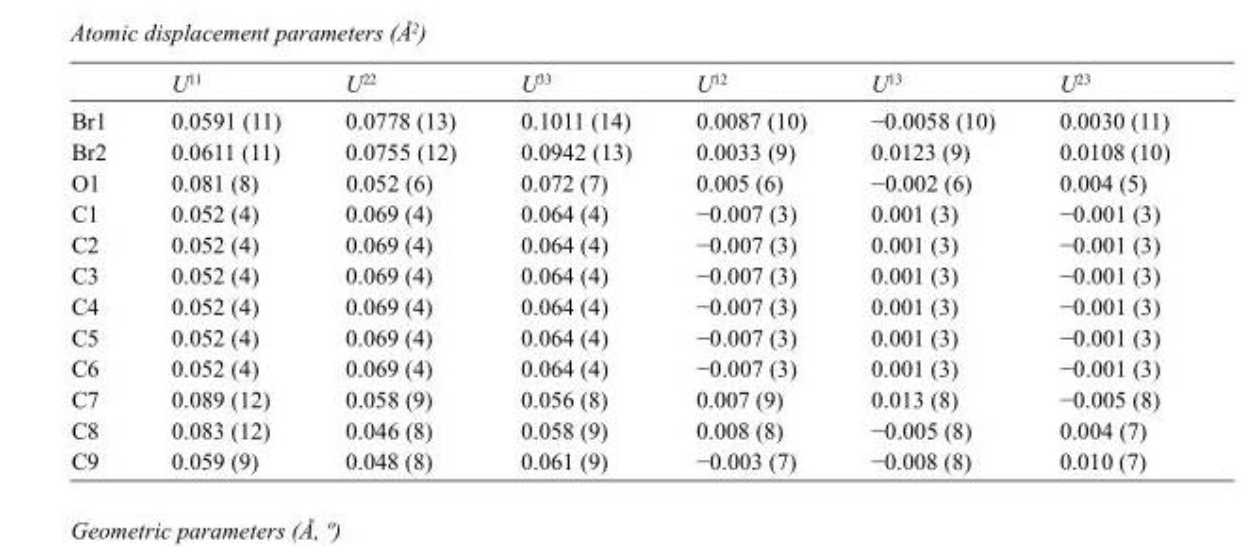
<table><thead><tr><td></td><td>U<sup>11</sup></td><td>U<sup>22</sup></td><td>U<sup>33</sup></td><td>U<sup>12</sup></td><td>U<sup>13</sup></td><td>U<sup>23</sup></td></tr></thead><tbody><tr><td>Br1</td><td>0.0591 (11)</td><td>0.0778 (13)</td><td>0.1011 (14)</td><td>0.0087 (10)</td><td>−0.0058 (10)</td><td>0.0030 (11)</td></tr><tr><td>Br2</td><td>0.0611 (11)</td><td>0.0755 (12)</td><td>0.0942 (13)</td><td>0.0033 (9)</td><td>0.0123 (9)</td><td>0.0108 (10)</td></tr><tr><td>O1</td><td>0.081 (8)</td><td>0.052 (6)</td><td>0.072 (7)</td><td>0.005 (6)</td><td>−0.002 (6)</td><td>0.004 (5)</td></tr><tr><td>C1</td><td>0.052 (4)</td><td>0.069 (4)</td><td>0.064 (4)</td><td>−0.007 (3)</td><td>0.001 (3)</td><td>−0.001 (3)</td></tr><tr><td>C2</td><td>0.052 (4)</td><td>0.069 (4)</td><td>0.064 (4)</td><td>−0.007 (3)</td><td>0.001 (3)</td><td>−0.001 (3)</td></tr><tr><td>C3</td><td>0.052 (4)</td><td>0.069 (4)</td><td>0.064 (4)</td><td>−0.007 (3)</td><td>0.001 (3)</td><td>−0.001 (3)</td></tr><tr><td>C4</td><td>0.052 (4)</td><td>0.069 (4)</td><td>0.064 (4)</td><td>−0.007 (3)</td><td>0.001 (3)</td><td>−0.001 (3)</td></tr><tr><td>C5</td><td>0.052 (4)</td><td>0.069 (4)</td><td>0.064 (4)</td><td>−0.007 (3)</td><td>0.001 (3)</td><td>−0.001 (3)</td></tr><tr><td>C6</td><td>0.052 (4)</td><td>0.069 (4)</td><td>0.064 (4)</td><td>−0.007 (3)</td><td>0.001 (3)</td><td>−0.001 (3)</td></tr><tr><td>C7</td><td>0.089 (12)</td><td>0.058 (9)</td><td>0.056 (8)</td><td>0.007 (9)</td><td>0.013 (8)</td><td>−0.005 (8)</td></tr><tr><td>C8</td><td>0.083 (12)</td><td>0.046 (8)</td><td>0.058 (9)</td><td>0.008 (8)</td><td>−0.005 (8)</td><td>0.004 (7)</td></tr><tr><td>C9</td><td>0.059 (9)</td><td>0.048 (8)</td><td>0.061 (9)</td><td>−0.003 (7)</td><td>−0.008 (8)</td><td>0.010 (7)</td></tr></tbody></table>